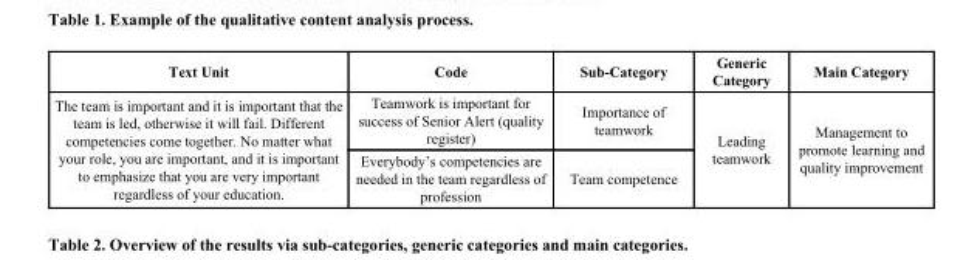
<table><thead><tr><td>Text Unit</td><td>Code</td><td>Sub-Category</td><td>Generic Category</td><td>Main Category</td></tr></thead><tbody><tr><td rowspan="2">The team is important and it is important that the team is led, otherwise it will fail. Different competencies come together. No matter what your role, you are important, and it is important to emphasize that you are very important regardless of your education.</td><td>Teamwork is important for success of Senior Alert (quality register)</td><td>Importance of teamwork</td><td rowspan="2">Leading teamwork</td><td rowspan="2">Management to promote learning and quality improvement</td></tr><tr><td>Everybody’s competencies are needed in the team regardless of profession</td><td>Team competence</td></tr></tbody></table>